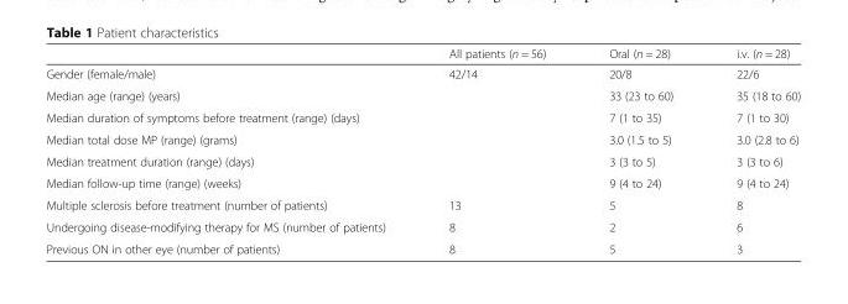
<table><thead><tr><td></td><td>All patients (n = 56)</td><td>Oral (n = 28)</td><td>i.v. (n = 28)</td></tr></thead><tbody><tr><td>Gender (female/male)</td><td>42/14</td><td>20/8</td><td>22/6</td></tr><tr><td>Median age (range) (years)</td><td></td><td>33 (23 to 60)</td><td>35 (18 to 60)</td></tr><tr><td>Median duration of symptoms before treatment (range) (days)</td><td></td><td>7 (1 to 35)</td><td>7 (1 to 30)</td></tr><tr><td>Median total dose MP (range) (grams)</td><td></td><td>3.0 (1.5 to 5)</td><td>3.0 (2.8 to 6)</td></tr><tr><td>Median treatment duration (range) (days)</td><td></td><td>3 (3 to 5)</td><td>3 (3 to 6)</td></tr><tr><td>Median follow-up time (range) (weeks)</td><td></td><td>9 (4 to 24)</td><td>9 (4 to 24)</td></tr><tr><td>Multiple sclerosis before treatment (number of patients)</td><td>13</td><td>5</td><td>8</td></tr><tr><td>Undergoing disease-modifying therapy for MS (number of patients)</td><td>8</td><td>2</td><td>6</td></tr><tr><td>Previous ON in other eye (number of patients)</td><td>8</td><td>5</td><td>3</td></tr></tbody></table>